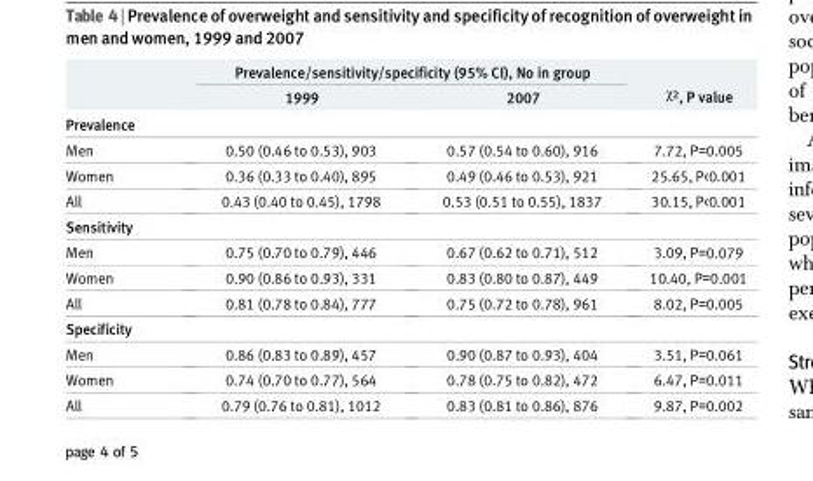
<table><thead><tr><td rowspan="2"></td><td colspan="2">Prevalence/sensitivity/specificity (95% CI), No in group</td><td rowspan="2">χ<sup>2</sup>, P value</td></tr><tr><td>1999</td><td>2007</td></tr></thead><tbody><tr><td colspan="4">Prevalence</td></tr><tr><td>Men</td><td>0.50 (0.46 to 0.53), 903</td><td>0.57 (0.54 to 0.60), 916</td><td>7.72, P=0.005</td></tr><tr><td>Women</td><td>0.36 (0.33 to 0.40), 895</td><td>0.49 (0.46 to 0.53), 921</td><td>25.65, P&lt;0.001</td></tr><tr><td>All</td><td>0.43 (0.40 to 0.45), 1798</td><td>0.53 (0.51 to 0.55), 1837</td><td>30.15, P&lt;0.001</td></tr><tr><td colspan="4">Sensitivity</td></tr><tr><td>Men</td><td>0.75 (0.70 to 0.79), 446</td><td>0.67 (0.62 to 0.71), 512</td><td>3.09, P=0.079</td></tr><tr><td>Women</td><td>0.90 (0.86 to 0.93), 331</td><td>0.83 (0.80 to 0.87), 449</td><td>10.40, P=0.001</td></tr><tr><td>All</td><td>0.81 (0.78 to 0.84), 777</td><td>0.75 (0.72 to 0.78), 961</td><td>8.02, P=0.005</td></tr><tr><td colspan="4">Specificity</td></tr><tr><td>Men</td><td>0.86 (0.83 to 0.89), 457</td><td>0.90 (0.87 to 0.93), 404</td><td>3.51, P=0.061</td></tr><tr><td>Women</td><td>0.74 (0.70 to 0.77), 564</td><td>0.78 (0.75 to 0.82), 472</td><td>6.47, P=0.011</td></tr><tr><td>All</td><td>0.79 (0.76 to 0.81), 1012</td><td>0.83 (0.81 to 0.86), 876</td><td>9.87, P=0.002</td></tr></tbody></table>